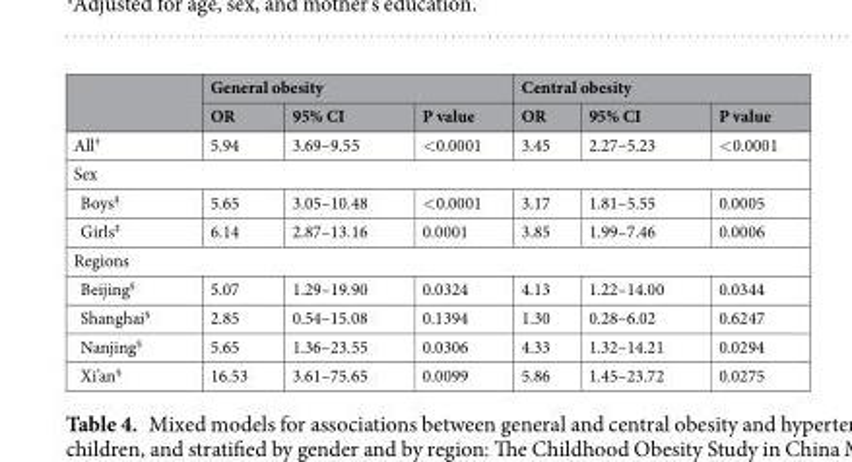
<table><thead><tr><td rowspan="2"></td><td colspan="3">General obesity</td><td colspan="3">Central obesity</td></tr><tr><td>OR</td><td>95% CI</td><td>P value</td><td>OR</td><td>95% CI</td><td>P value</td></tr></thead><tbody><tr><td>All<sup>†</sup></td><td>5.94</td><td>3.69–9.55</td><td>&lt;0.0001</td><td>3.45</td><td>2.27–5.23</td><td>&lt;0.0001</td></tr><tr><td colspan="7">Sex</td></tr><tr><td>Boys<sup>‡</sup></td><td>5.65</td><td>3.05–10.48</td><td>&lt;0.0001</td><td>3.17</td><td>1.81–5.55</td><td>0.0005</td></tr><tr><td>Girls<sup>‡</sup></td><td>6.14</td><td>2.87–13.16</td><td>0.0001</td><td>3.85</td><td>1.99–7.46</td><td>0.0006</td></tr><tr><td colspan="7">Regions</td></tr><tr><td>Beijing<sup>§</sup></td><td>5.07</td><td>1.29–19.90</td><td>0.0324</td><td>4.13</td><td>1.22–14.00</td><td>0.0344</td></tr><tr><td>Shanghai<sup>§</sup></td><td>2.85</td><td>0.54–15.08</td><td>0.1394</td><td>1.30</td><td>0.28–6.02</td><td>0.6247</td></tr><tr><td>Nanjing<sup>§</sup></td><td>5.65</td><td>1.36–23.55</td><td>0.0306</td><td>4.33</td><td>1.32–14.21</td><td>0.0294</td></tr><tr><td>Xi’an<sup>§</sup></td><td>16.53</td><td>3.61–75.65</td><td>0.0099</td><td>5.86</td><td>1.45–23.72</td><td>0.0275</td></tr></tbody></table>